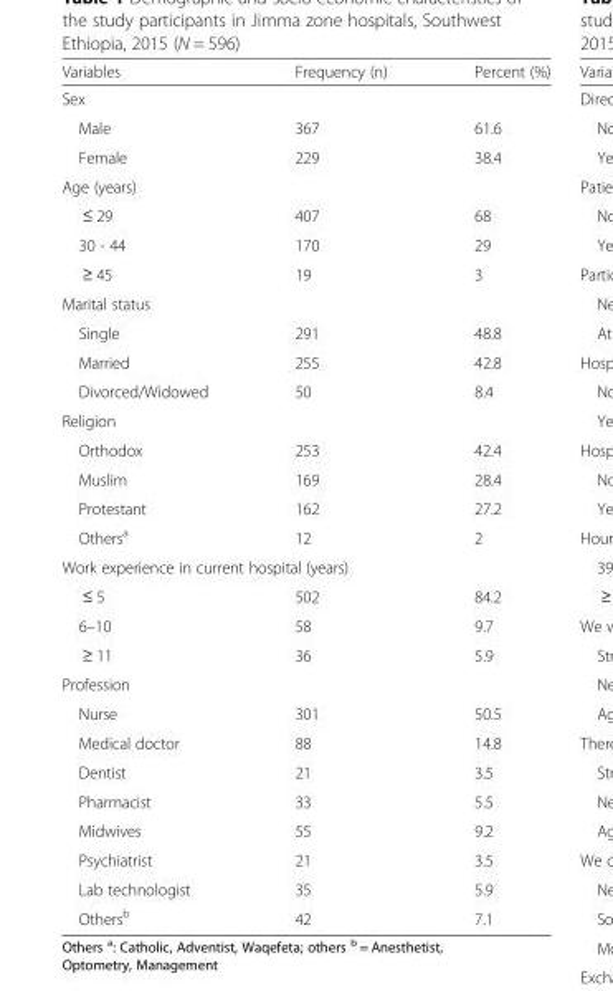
<table><thead><tr><td>Variables</td><td>Frequency (n)</td><td>Percent (%)</td></tr></thead><tbody><tr><td colspan="3">Sex</td></tr><tr><td>Male</td><td>367</td><td>61.6</td></tr><tr><td>Female</td><td>229</td><td>38.4</td></tr><tr><td colspan="3">Age (years)</td></tr><tr><td>≤ 29</td><td>407</td><td>68</td></tr><tr><td>30 - 44</td><td>170</td><td>29</td></tr><tr><td>≥ 45</td><td>19</td><td>3</td></tr><tr><td colspan="3">Marital status</td></tr><tr><td>Single</td><td>291</td><td>48.8</td></tr><tr><td>Married</td><td>255</td><td>42.8</td></tr><tr><td>Divorced/Widowed</td><td>50</td><td>8.4</td></tr><tr><td colspan="3">Religion</td></tr><tr><td>Orthodox</td><td>253</td><td>42.4</td></tr><tr><td>Muslim</td><td>169</td><td>28.4</td></tr><tr><td>Protestant</td><td>162</td><td>27.2</td></tr><tr><td>Others<sup>a</sup></td><td>12</td><td>2</td></tr><tr><td colspan="3">Work experience in current hospital (years)</td></tr><tr><td>≤ 5</td><td>502</td><td>84.2</td></tr><tr><td>6–10</td><td>58</td><td>9.7</td></tr><tr><td>≥ 11</td><td>36</td><td>5.9</td></tr><tr><td colspan="3">Profession</td></tr><tr><td>Nurse</td><td>301</td><td>50.5</td></tr><tr><td>Medical doctor</td><td>88</td><td>14.8</td></tr><tr><td>Dentist</td><td>21</td><td>3.5</td></tr><tr><td>Pharmacist</td><td>33</td><td>5.5</td></tr><tr><td>Midwives</td><td>55</td><td>9.2</td></tr><tr><td>Psychiatrist</td><td>21</td><td>3.5</td></tr><tr><td>Lab technologist</td><td>35</td><td>5.9</td></tr><tr><td>Others<sup>b</sup></td><td>42</td><td>7.1</td></tr></tbody></table>